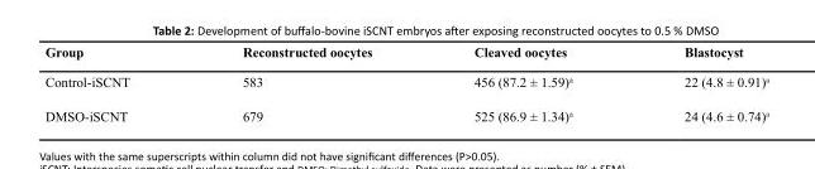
<table><thead><tr><td>Group</td><td>Reconstructed oocytes</td><td>Cleaved oocytes</td><td>Blastocyst</td></tr></thead><tbody><tr><td>Control-iSCNT</td><td>583</td><td>456 (87.2 ± 1.59)<sup>a</sup></td><td>22 (4.8 ± 0.91)<sup>a</sup></td></tr><tr><td>DMSO-iSCNT</td><td>679</td><td>525 (86.9 ± 1.34)<sup>a</sup></td><td>24 (4.6 ± 0.74)<sup>a</sup></td></tr></tbody></table>